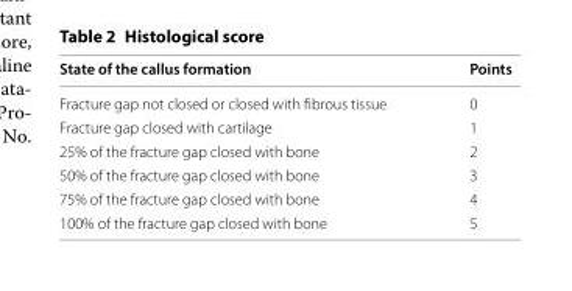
<table><thead><tr><td>State of the callus formation</td><td>Points</td></tr></thead><tbody><tr><td>Fracture gap not closed or closed with fibrous tissue</td><td>0</td></tr><tr><td>Fracture gap closed with cartilage</td><td>1</td></tr><tr><td>25% of the fracture gap closed with bone</td><td>2</td></tr><tr><td>50% of the fracture gap closed with bone</td><td>3</td></tr><tr><td>75% of the fracture gap closed with bone</td><td>4</td></tr><tr><td>100% of the fracture gap closed with bone</td><td>5</td></tr></tbody></table>